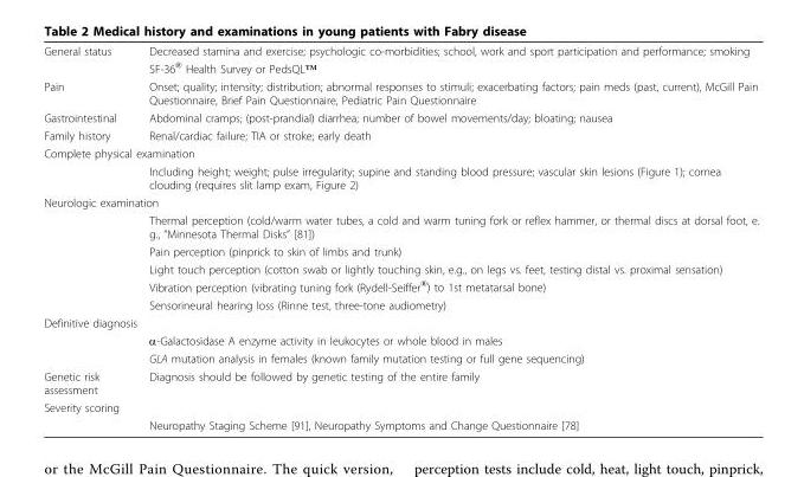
<table><tbody><tr><td rowspan="2">General status</td><td>Decreased stamina and exercise; psychologic co-morbidities; school, work and sport participation and performance; smoking</td></tr><tr><td>SF-36<sup>®</sup> Health Survey or PedsQL™</td></tr><tr><td>Pain</td><td>Onset; quality; intensity; distribution; abnormal responses to stimuli; exacerbating factors; pain meds (past, current), McGill Pain Questionnaire, Brief Pain Questionnaire, Pediatric Pain Questionnaire</td></tr><tr><td>Gastrointestinal</td><td>Abdominal cramps; (post-prandial) diarrhea; number of bowel movements/day; bloating; nausea</td></tr><tr><td>Family history</td><td>Renal/cardiac failure; TIA or stroke; early death</td></tr><tr><td colspan="2">Complete physical examination</td></tr><tr><td></td><td>Including height; weight; pulse irregularity; supine and standing blood pressure; vascular skin lesions (Figure 1); cornea clouding (requires slit lamp exam, Figure 2)</td></tr><tr><td colspan="2">Neurologic examination</td></tr><tr><td></td><td>Thermal perception (cold/warm water tubes, a cold and warm tuning fork or reflex hammer, or thermal discs at dorsal foot, e. g., “Minnesota Thermal Disks” [81])</td></tr><tr><td></td><td>Pain perception (pinprick to skin of limbs and trunk)</td></tr><tr><td></td><td>Light touch perception (cotton swab or lightly touching skin, e.g., on legs vs. feet, testing distal vs. proximal sensation)</td></tr><tr><td></td><td>Vibration perception (vibrating tuning fork (Rydell-Seiffer<sup>®</sup>) to 1st metatarsal bone)</td></tr><tr><td></td><td>Sensorineural hearing loss (Rinne test, three-tone audiometry)</td></tr><tr><td colspan="2">Definitive diagnosis</td></tr><tr><td></td><td>α-Galactosidase A enzyme activity in leukocytes or whole blood in males</td></tr><tr><td></td><td>GLA mutation analysis in females (known family mutation testing or full gene sequencing)</td></tr><tr><td>Genetic risk assessment</td><td>Diagnosis should be followed by genetic testing of the entire family</td></tr><tr><td colspan="2">Severity scoring</td></tr><tr><td></td><td>Neuropathy Staging Scheme [91], Neuropathy Symptoms and Change Questionnaire [78]</td></tr></tbody></table>